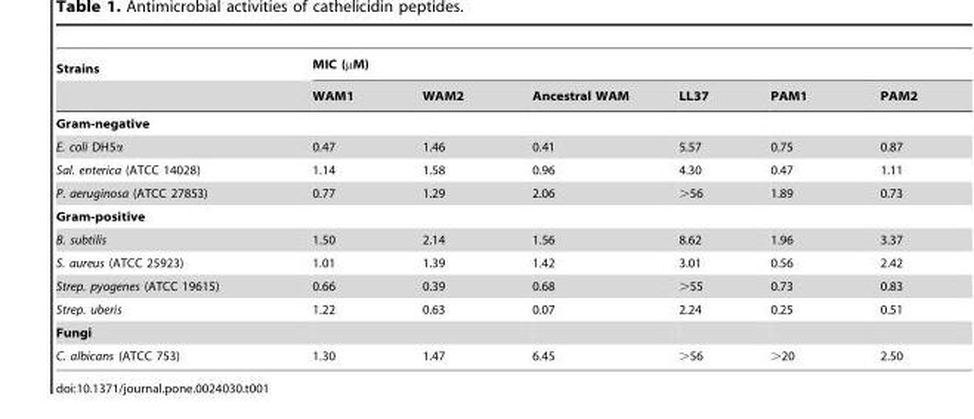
<table><thead><tr><td rowspan="2">Strains</td><td colspan="6">MIC (µM)</td></tr><tr><td>WAM1</td><td>WAM2</td><td>Ancestral WAM</td><td>LL37</td><td>PAM1</td><td>PAM2</td></tr></thead><tbody><tr><td colspan="7">Gram-negative</td></tr><tr><td>E. coli DH5α</td><td>0.47</td><td>1.46</td><td>0.41</td><td>5.57</td><td>0.75</td><td>0.87</td></tr><tr><td>Sal. enterica (ATCC 14028)</td><td>1.14</td><td>1.58</td><td>0.96</td><td>4.30</td><td>0.47</td><td>1.11</td></tr><tr><td>P. aeruginosa (ATCC 27853)</td><td>0.77</td><td>1.29</td><td>2.06</td><td>&gt;56</td><td>1.89</td><td>0.73</td></tr><tr><td colspan="7">Gram-positive</td></tr><tr><td>B. subtilis</td><td>1.50</td><td>2.14</td><td>1.56</td><td>8.62</td><td>1.96</td><td>3.37</td></tr><tr><td>S. aureus (ATCC 25923)</td><td>1.01</td><td>1.39</td><td>1.42</td><td>3.01</td><td>0.56</td><td>2.42</td></tr><tr><td>Strep. pyogenes (ATCC 19615)</td><td>0.66</td><td>0.39</td><td>0.68</td><td>&gt;55</td><td>0.73</td><td>0.83</td></tr><tr><td>Strep. uberis</td><td>1.22</td><td>0.63</td><td>0.07</td><td>2.24</td><td>0.25</td><td>0.51</td></tr><tr><td colspan="7">Fungi</td></tr><tr><td>C. albicans (ATCC 753)</td><td>1.30</td><td>1.47</td><td>6.45</td><td>&gt;56</td><td>&gt;20</td><td>2.50</td></tr></tbody></table>